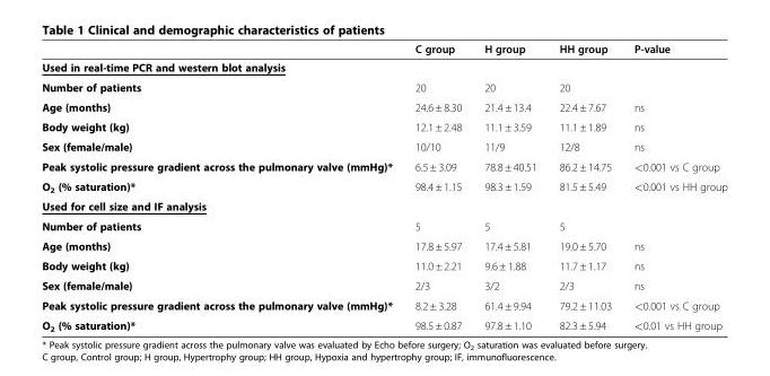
<table><thead><tr><td></td><td>C group</td><td>H group</td><td>HH group</td><td>P-value</td></tr></thead><tbody><tr><td colspan="5">Used in real-time PCR and western blot analysis</td></tr><tr><td>Number of patients</td><td>20</td><td>20</td><td>20</td><td></td></tr><tr><td>Age (months)</td><td>24.6 ± 8.30</td><td>21.4 ± 13.4</td><td>22.4 ± 7.67</td><td>ns</td></tr><tr><td>Body weight (kg)</td><td>12.1 ± 2.48</td><td>11.1 ± 3.59</td><td>11.1 ± 1.89</td><td>ns</td></tr><tr><td>Sex (female/male)</td><td>10/10</td><td>11/9</td><td>12/8</td><td>ns</td></tr><tr><td>Peak systolic pressure gradient across the pulmonary valve (mmHg)*</td><td>6.5 ± 3.09</td><td>78.8 ± 40.51</td><td>86.2 ± 14.75</td><td>&lt;0.001 vs C group</td></tr><tr><td>O<sub>2</sub> (% saturation)*</td><td>98.4 ± 1.15</td><td>98.3 ± 1.59</td><td>81.5 ± 5.49</td><td>&lt;0.001 vs HH group</td></tr><tr><td colspan="5">Used for cell size and IF analysis</td></tr><tr><td>Number of patients</td><td>5</td><td>5</td><td>5</td><td></td></tr><tr><td>Age (months)</td><td>17.8 ± 5.97</td><td>17.4 ± 5.81</td><td>19.0 ± 5.70</td><td>ns</td></tr><tr><td>Body weight (kg)</td><td>11.0 ± 2.21</td><td>9.6 ± 1.88</td><td>11.7 ± 1.17</td><td>ns</td></tr><tr><td>Sex (female/male)</td><td>2/3</td><td>3/2</td><td>2/3</td><td>ns</td></tr><tr><td>Peak systolic pressure gradient across the pulmonary valve (mmHg)*</td><td>8.2 ± 3.28</td><td>61.4 ± 9.94</td><td>79.2 ± 11.03</td><td>&lt;0.001 vs C group</td></tr><tr><td>O<sub>2</sub> (% saturation)*</td><td>98.5 ± 0.87</td><td>97.8 ± 1.10</td><td>82.3 ± 5.94</td><td>&lt;0.01 vs HH group</td></tr></tbody></table>